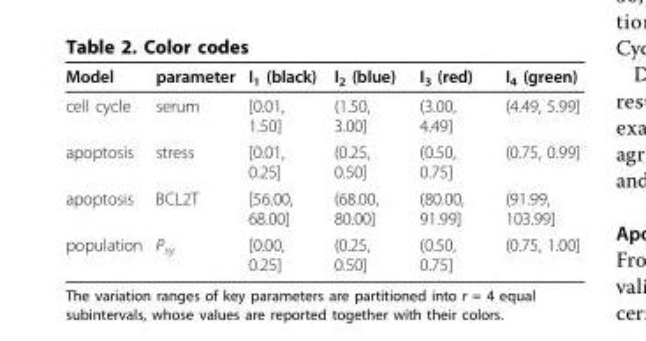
<table><thead><tr><td>Model</td><td>parameter</td><td>I<sub>1</sub> (black)</td><td>I<sub>2</sub> (blue)</td><td>I<sub>3</sub> (red)</td><td>I<sub>4</sub> (green)</td></tr></thead><tbody><tr><td>cell cycle</td><td>serum</td><td>[0.01, 1.50]</td><td>(1.50, 3.00]</td><td>(3.00, 4.49]</td><td>(4.49, 5.99]</td></tr><tr><td>apoptosis</td><td>stress</td><td>[0.01, 0.25]</td><td>(0.25, 0.50]</td><td>(0.50, 0.75]</td><td>(0.75, 0.99]</td></tr><tr><td>apoptosis</td><td>BCL2T</td><td>[56.00, 68.00]</td><td>(68.00, 80.00]</td><td>(80.00, 91.99]</td><td>(91.99, 103.99]</td></tr><tr><td>population</td><td>P<sub>sy</sub></td><td>[0.00, 0.25]</td><td>(0.25, 0.50]</td><td>(0.50, 0.75]</td><td>(0.75, 1.00]</td></tr></tbody></table>